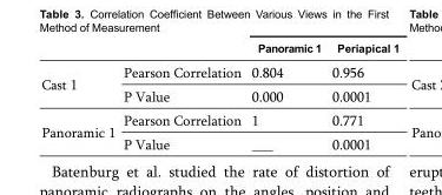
<table><thead><tr><td></td><td></td><td>Panoramic 1</td><td>Periapical 1</td></tr></thead><tbody><tr><td rowspan="2">Cast 1</td><td>Pearson Correlation</td><td>0.804</td><td>0.956</td></tr><tr><td>P Value</td><td>0.000</td><td>0.0001</td></tr><tr><td rowspan="2">Panoramic 1</td><td>Pearson Correlation</td><td>1</td><td>0.771</td></tr><tr><td>P Value</td><td>___</td><td>0.0001</td></tr></tbody></table>